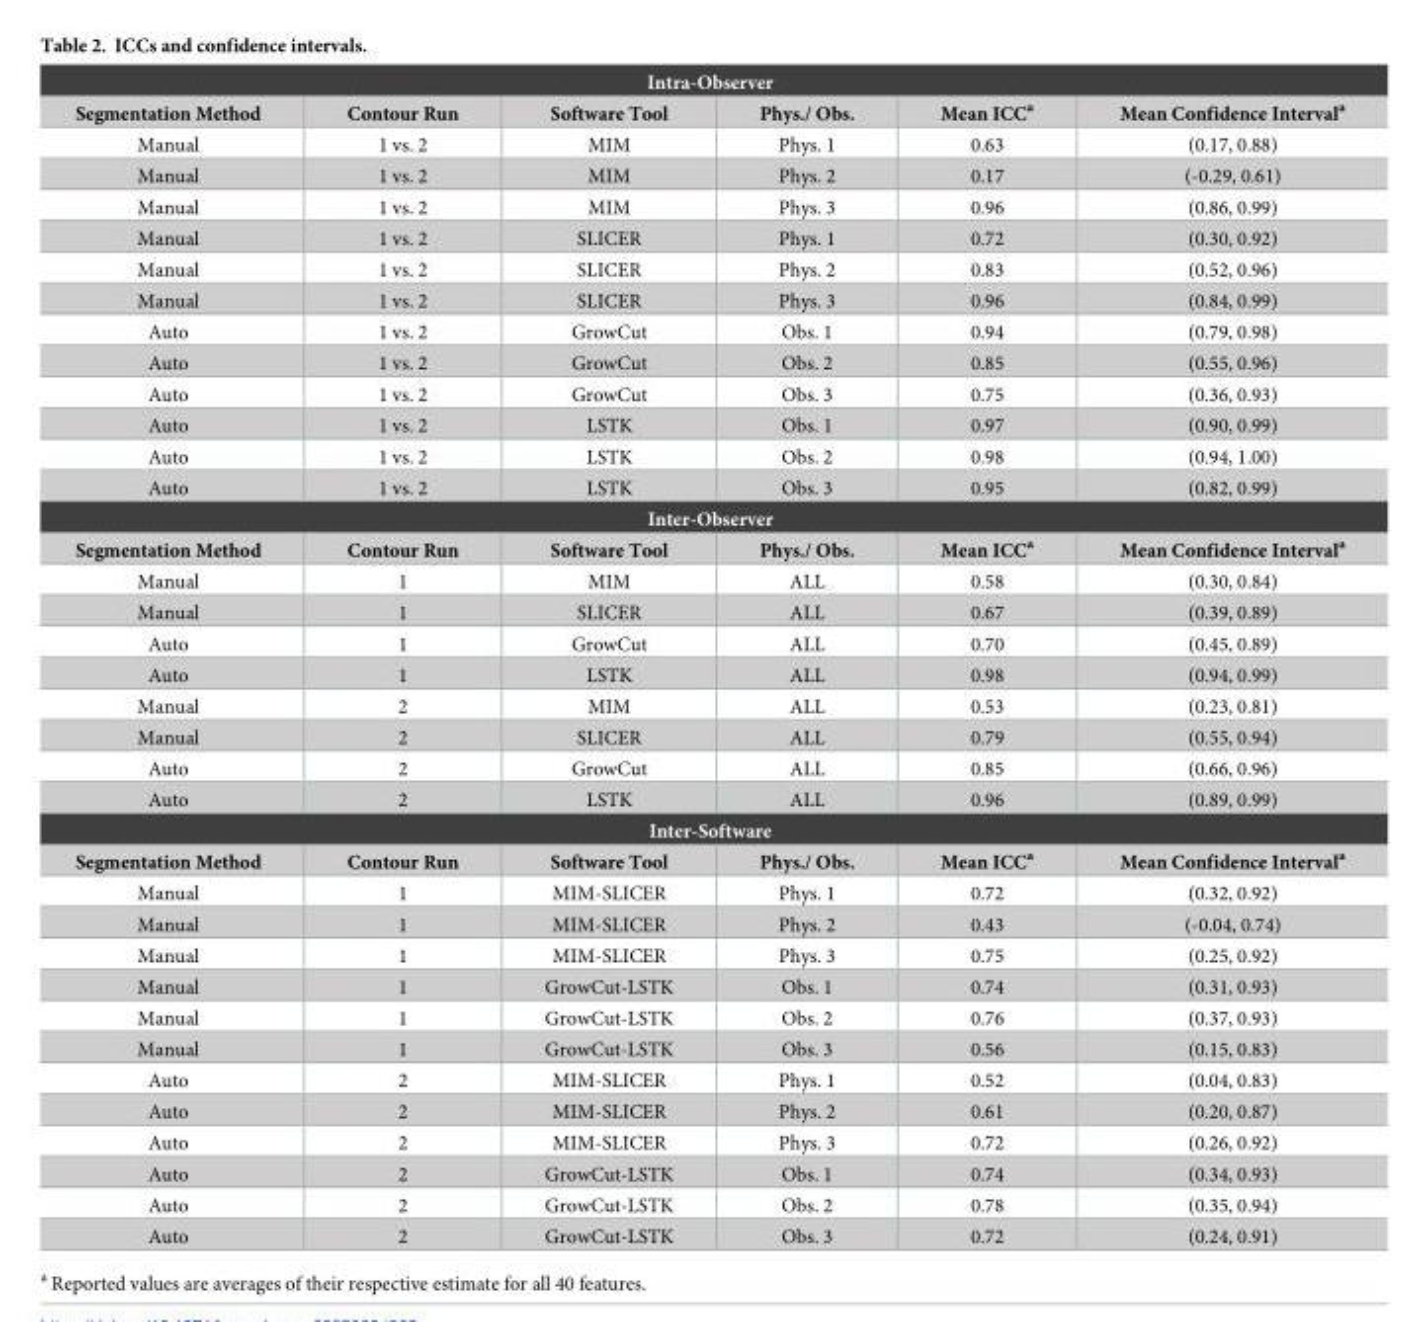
<table><tbody><tr><td colspan="6">Intra-Observer</td></tr><tr><td>Segmentation Method</td><td>Contour Run</td><td>Software Tool</td><td>Phys./ Obs.</td><td>Mean ICCa</td><td>Mean Confidence Intervala</td></tr><tr><td>Manual</td><td>1 vs. 2</td><td>MIM</td><td>Phys. 1</td><td>0.63</td><td>(0.17, 0.88)</td></tr><tr><td>Manual</td><td>1 vs. 2</td><td>MIM</td><td>Phys. 2</td><td>0.17</td><td>(-0.29, 0.61)</td></tr><tr><td>Manual</td><td>1 vs. 2</td><td>MIM</td><td>Phys. 3</td><td>0.96</td><td>(0.86, 0.99)</td></tr><tr><td>Manual</td><td>1 vs. 2</td><td>SLICER</td><td>Phys. 1</td><td>0.72</td><td>(0.30, 0.92)</td></tr><tr><td>Manual</td><td>1 vs. 2</td><td>SLICER</td><td>Phys. 2</td><td>0.83</td><td>(0.52, 0.96)</td></tr><tr><td>Manual</td><td>1 vs. 2</td><td>SLICER</td><td>Phys. 3</td><td>0.96</td><td>(0.84, 0.99)</td></tr><tr><td>Auto</td><td>1 vs. 2</td><td>GrowCut</td><td>Obs. 1</td><td>0.94</td><td>(0.79, 0.98)</td></tr><tr><td>Auto</td><td>1 vs. 2</td><td>GrowCut</td><td>Obs. 2</td><td>0.85</td><td>(0.55, 0.96)</td></tr><tr><td>Auto</td><td>1 vs. 2</td><td>GrowCut</td><td>Obs. 3</td><td>0.75</td><td>(0.36, 0.93)</td></tr><tr><td>Auto</td><td>1 vs. 2</td><td>LSTK</td><td>Obs. 1</td><td>0.97</td><td>(0.90, 0.99)</td></tr><tr><td>Auto</td><td>1 vs. 2</td><td>LSTK</td><td>Obs. 2</td><td>0.98</td><td>(0.94, 1.00)</td></tr><tr><td>Auto</td><td>1 vs. 2</td><td>LSTK</td><td>Obs. 3</td><td>0.95</td><td>(0.82, 0.99)</td></tr><tr><td colspan="6">Inter-Observer</td></tr><tr><td>Segmentation Method</td><td>Contour Run</td><td>Software Tool</td><td>Phys./ Obs.</td><td>Mean ICCa</td><td>Mean Confidence Intervala</td></tr><tr><td>Manual</td><td>1</td><td>MIM</td><td>ALL</td><td>0.58</td><td>(0.30, 0.84)</td></tr><tr><td>Manual</td><td>1</td><td>SLICER</td><td>ALL</td><td>0.67</td><td>(0.39, 0.89)</td></tr><tr><td>Auto</td><td>1</td><td>GrowCut</td><td>ALL</td><td>0.70</td><td>(0.45, 0.89)</td></tr><tr><td>Auto</td><td>1</td><td>LSTK</td><td>ALL</td><td>0.98</td><td>(0.94, 0.99)</td></tr><tr><td>Manual</td><td>2</td><td>MIM</td><td>ALL</td><td>0.53</td><td>(0.23, 0.81)</td></tr><tr><td>Manual</td><td>2</td><td>SLICER</td><td>ALL</td><td>0.79</td><td>(0.55, 0.94)</td></tr><tr><td>Auto</td><td>2</td><td>GrowCut</td><td>ALL</td><td>0.85</td><td>(0.66, 0.96)</td></tr><tr><td>Auto</td><td>2</td><td>LSTK</td><td>ALL</td><td>0.96</td><td>(0.89, 0.99)</td></tr><tr><td colspan="6">Inter-Software</td></tr><tr><td>Segmentation Method</td><td>Contour Run</td><td>Software Tool</td><td>Phys./ Obs.</td><td>Mean ICCa</td><td>Mean Confidence Intervala</td></tr><tr><td>Manual</td><td>1</td><td>MIM-SLICER</td><td>Phys. 1</td><td>0.72</td><td>(0.32, 0.92)</td></tr><tr><td>Manual</td><td>1</td><td>MIM-SLICER</td><td>Phys. 2</td><td>0.43</td><td>(-0.04, 0.74)</td></tr><tr><td>Manual</td><td>1</td><td>MIM-SLICER</td><td>Phys. 3</td><td>0.75</td><td>(0.25, 0.92)</td></tr><tr><td>Manual</td><td>1</td><td>GrowCut-LSTK</td><td>Obs. 1</td><td>0.74</td><td>(0.31, 0.93)</td></tr><tr><td>Manual</td><td>1</td><td>GrowCut-LSTK</td><td>Obs. 2</td><td>0.76</td><td>(0.37, 0.93)</td></tr><tr><td>Manual</td><td>1</td><td>GrowCut-LSTK</td><td>Obs. 3</td><td>0.56</td><td>(0.15, 0.83)</td></tr><tr><td>Auto</td><td>2</td><td>MIM-SLICER</td><td>Phys. 1</td><td>0.52</td><td>(0.04, 0.83)</td></tr><tr><td>Auto</td><td>2</td><td>MIM-SLICER</td><td>Phys. 2</td><td>0.61</td><td>(0.20, 0.87)</td></tr><tr><td>Auto</td><td>2</td><td>MIM-SLICER</td><td>Phys. 3</td><td>0.72</td><td>(0.26, 0.92)</td></tr><tr><td>Auto</td><td>2</td><td>GrowCut-LSTK</td><td>Obs. 1</td><td>0.74</td><td>(0.34, 0.93)</td></tr><tr><td>Auto</td><td>2</td><td>GrowCut-LSTK</td><td>Obs. 2</td><td>0.78</td><td>(0.35, 0.94)</td></tr><tr><td>Auto</td><td>2</td><td>GrowCut-LSTK</td><td>Obs. 3</td><td>0.72</td><td>(0.24, 0.91)</td></tr></tbody></table>